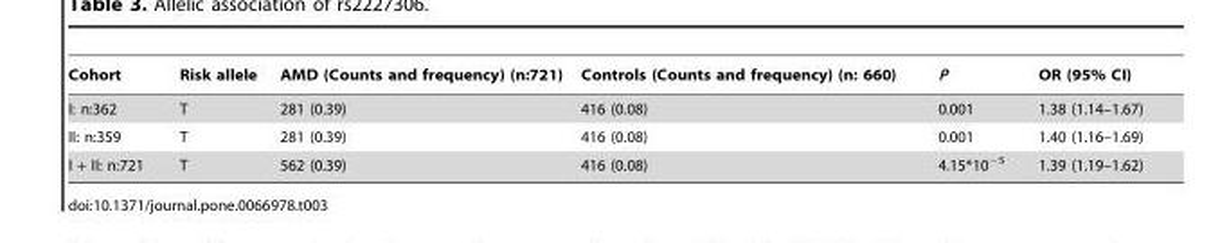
<table><thead><tr><td>Cohort</td><td>Risk allele</td><td>AMD (Counts and frequency) (n:721)</td><td>Controls (Counts and frequency) (n: 660)</td><td>P</td><td>OR (95% CI)</td></tr></thead><tbody><tr><td>I: n:362</td><td>T</td><td>281 (0.39)</td><td>416 (0.08)</td><td>0.001</td><td>1.38 (1.14–1.67)</td></tr><tr><td>II: n:359</td><td>T</td><td>281 (0.39)</td><td>416 (0.08)</td><td>0.001</td><td>1.40 (1.16–1.69)</td></tr><tr><td>I + II: n:721</td><td>T</td><td>562 (0.39)</td><td>416 (0.08)</td><td>4.15*10<sup>−5</sup></td><td>1.39 (1.19–1.62)</td></tr></tbody></table>